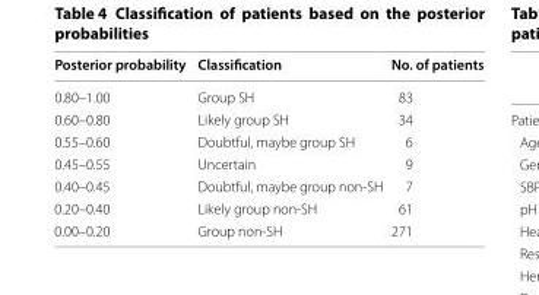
<table><thead><tr><td>Posterior probability</td><td>Classification</td><td>No. of patients</td></tr></thead><tbody><tr><td>0.80–1.00</td><td>Group SH</td><td>83</td></tr><tr><td>0.60–0.80</td><td>Likely group SH</td><td>34</td></tr><tr><td>0.55–0.60</td><td>Doubtful, maybe group SH</td><td>6</td></tr><tr><td>0.45–0.55</td><td>Uncertain</td><td>9</td></tr><tr><td>0.40–0.45</td><td>Doubtful, maybe group non-SH</td><td>7</td></tr><tr><td>0.20–0.40</td><td>Likely group non-SH</td><td>61</td></tr><tr><td>0.00–0.20</td><td>Group non-SH</td><td>271</td></tr></tbody></table>